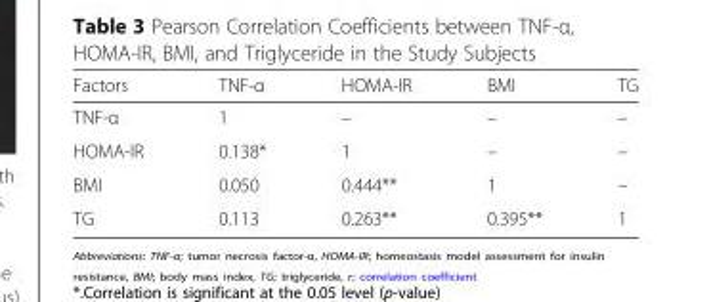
<table><thead><tr><td>Factors</td><td>TNF-α</td><td>HOMA-IR</td><td>BMI</td><td>TG</td></tr></thead><tbody><tr><td>TNF-α</td><td>1</td><td>–</td><td>–</td><td>–</td></tr><tr><td>HOMA-IR</td><td>0.138*</td><td>1</td><td>–</td><td>–</td></tr><tr><td>BMI</td><td>0.050</td><td>0.444**</td><td>1</td><td>–</td></tr><tr><td>TG</td><td>0.113</td><td>0.263**</td><td>0.395**</td><td>1</td></tr></tbody></table>